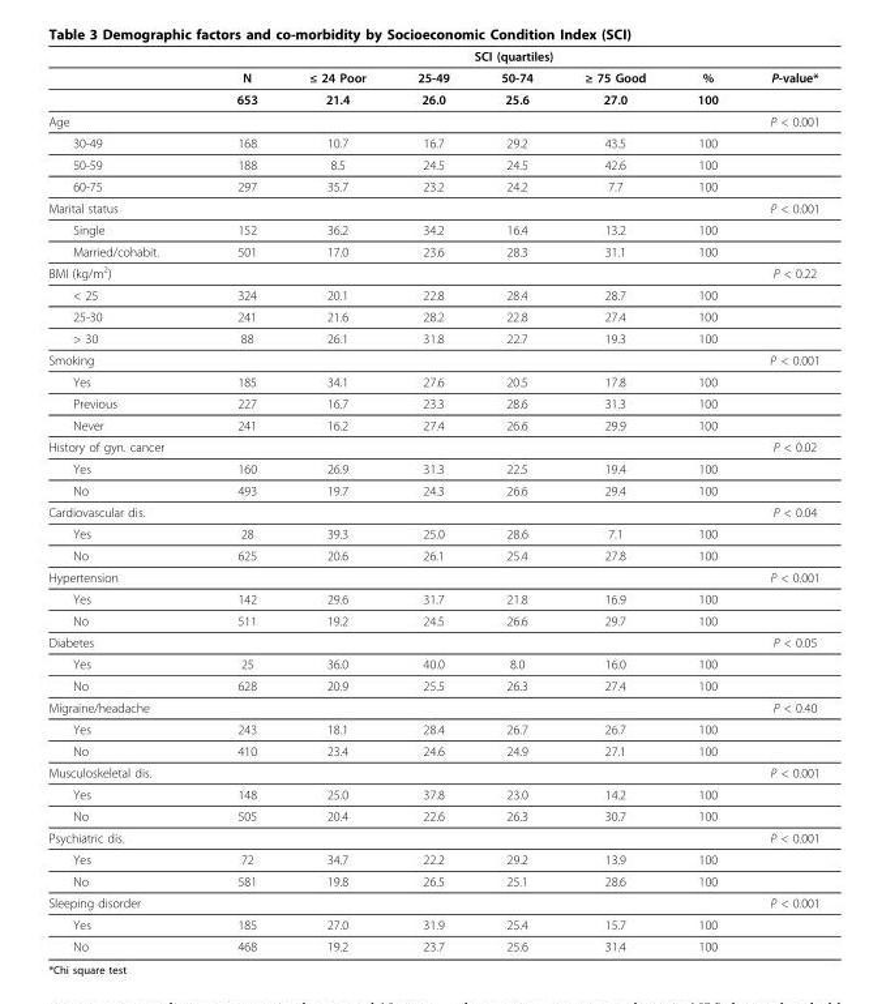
<table><thead><tr><td rowspan="2"></td><td rowspan="2">N</td><td colspan="5">SCI (quartiles)</td><td rowspan="2">P-value*</td></tr><tr><td>≤ 24 Poor</td><td>25-49</td><td>50-74</td><td>≥ 75 Good</td><td>%</td></tr></thead><tbody><tr><td></td><td>653</td><td>21.4</td><td>26.0</td><td>25.6</td><td>27.0</td><td>100</td><td></td></tr><tr><td>Age</td><td></td><td></td><td></td><td></td><td></td><td></td><td>P &lt; 0.001</td></tr><tr><td>30-49</td><td>168</td><td>10.7</td><td>16.7</td><td>29.2</td><td>43.5</td><td>100</td><td></td></tr><tr><td>50-59</td><td>188</td><td>8.5</td><td>24.5</td><td>24.5</td><td>42.6</td><td>100</td><td></td></tr><tr><td>60-75</td><td>297</td><td>35.7</td><td>23.2</td><td>24.2</td><td>7.7</td><td>100</td><td></td></tr><tr><td>Marital status</td><td></td><td></td><td></td><td></td><td></td><td></td><td>P &lt; 0.001</td></tr><tr><td>Single</td><td>152</td><td>36.2</td><td>34.2</td><td>16.4</td><td>13.2</td><td>100</td><td></td></tr><tr><td>Married/cohabit.</td><td>501</td><td>17.0</td><td>23.6</td><td>28.3</td><td>31.1</td><td>100</td><td></td></tr><tr><td>BMI (kg/m<sup>2</sup>)</td><td></td><td></td><td></td><td></td><td></td><td></td><td>P &lt; 0.22</td></tr><tr><td>&lt; 25</td><td>324</td><td>20.1</td><td>22.8</td><td>28.4</td><td>28.7</td><td>100</td><td></td></tr><tr><td>25-30</td><td>241</td><td>21.6</td><td>28.2</td><td>22.8</td><td>27.4</td><td>100</td><td></td></tr><tr><td>&gt; 30</td><td>88</td><td>26.1</td><td>31.8</td><td>22.7</td><td>19.3</td><td>100</td><td></td></tr><tr><td>Smoking</td><td></td><td></td><td></td><td></td><td></td><td></td><td>P &lt; 0.001</td></tr><tr><td>Yes</td><td>185</td><td>34.1</td><td>27.6</td><td>20.5</td><td>17.8</td><td>100</td><td></td></tr><tr><td>Previous</td><td>227</td><td>16.7</td><td>23.3</td><td>28.6</td><td>31.3</td><td>100</td><td></td></tr><tr><td>Never</td><td>241</td><td>16.2</td><td>27.4</td><td>26.6</td><td>29.9</td><td>100</td><td></td></tr><tr><td>History of gyn. cancer</td><td></td><td></td><td></td><td></td><td></td><td></td><td>P &lt; 0.02</td></tr><tr><td>Yes</td><td>160</td><td>26.9</td><td>31.3</td><td>22.5</td><td>19.4</td><td>100</td><td></td></tr><tr><td>No</td><td>493</td><td>19.7</td><td>24.3</td><td>26.6</td><td>29.4</td><td>100</td><td></td></tr><tr><td>Cardiovascular dis.</td><td></td><td></td><td></td><td></td><td></td><td></td><td>P &lt; 0.04</td></tr><tr><td>Yes</td><td>28</td><td>39.3</td><td>25.0</td><td>28.6</td><td>7.1</td><td>100</td><td></td></tr><tr><td>No</td><td>625</td><td>20.6</td><td>26.1</td><td>25.4</td><td>27.8</td><td>100</td><td></td></tr><tr><td>Hypertension</td><td></td><td></td><td></td><td></td><td></td><td></td><td>P &lt; 0.001</td></tr><tr><td>Yes</td><td>142</td><td>29.6</td><td>31.7</td><td>21.8</td><td>16.9</td><td>100</td><td></td></tr><tr><td>No</td><td>511</td><td>19.2</td><td>24.5</td><td>26.6</td><td>29.7</td><td>100</td><td></td></tr><tr><td>Diabetes</td><td></td><td></td><td></td><td></td><td></td><td></td><td>P &lt; 0.05</td></tr><tr><td>Yes</td><td>25</td><td>36.0</td><td>40.0</td><td>8.0</td><td>16.0</td><td>100</td><td></td></tr><tr><td>No</td><td>628</td><td>20.9</td><td>25.5</td><td>26.3</td><td>27.4</td><td>100</td><td></td></tr><tr><td>Migraine/headache</td><td></td><td></td><td></td><td></td><td></td><td></td><td>P &lt; 0.40</td></tr><tr><td>Yes</td><td>243</td><td>18.1</td><td>28.4</td><td>26.7</td><td>26.7</td><td>100</td><td></td></tr><tr><td>No</td><td>410</td><td>23.4</td><td>24.6</td><td>24.9</td><td>27.1</td><td>100</td><td></td></tr><tr><td>Musculoskeletal dis.</td><td></td><td></td><td></td><td></td><td></td><td></td><td>P &lt; 0.001</td></tr><tr><td>Yes</td><td>148</td><td>25.0</td><td>37.8</td><td>23.0</td><td>14.2</td><td>100</td><td></td></tr><tr><td>No</td><td>505</td><td>20.4</td><td>22.6</td><td>26.3</td><td>30.7</td><td>100</td><td></td></tr><tr><td>Psychiatric dis.</td><td></td><td></td><td></td><td></td><td></td><td></td><td>P &lt; 0.001</td></tr><tr><td>Yes</td><td>72</td><td>34.7</td><td>22.2</td><td>29.2</td><td>13.9</td><td>100</td><td></td></tr><tr><td>No</td><td>581</td><td>19.8</td><td>26.5</td><td>25.1</td><td>28.6</td><td>100</td><td></td></tr><tr><td>Sleeping disorder</td><td></td><td></td><td></td><td></td><td></td><td></td><td>P &lt; 0.001</td></tr><tr><td>Yes</td><td>185</td><td>27.0</td><td>31.9</td><td>25.4</td><td>15.7</td><td>100</td><td></td></tr><tr><td>No</td><td>468</td><td>19.2</td><td>23.7</td><td>25.6</td><td>31.4</td><td>100</td><td></td></tr></tbody></table>